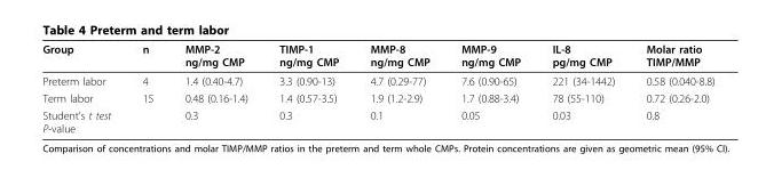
<table><thead><tr><td>Group</td><td>n</td><td>MMP-2 ng/mg CMP</td><td>TIMP-1 ng/mg CMP</td><td>MMP-8 ng/mg CMP</td><td>MMP-9 ng/mg CMP</td><td>IL-8 pg/mg CMP</td><td>Molar ratio TIMP/MMP</td></tr></thead><tbody><tr><td>Preterm labor</td><td>4</td><td>1.4 (0.40-4.7)</td><td>3.3 (0.90-13)</td><td>4.7 (0.29-77)</td><td>7.6 (0.90-65)</td><td>221 (34-1442)</td><td>0.58 (0.040-8.8)</td></tr><tr><td>Term labor</td><td>15</td><td>0.48 (0.16-1.4)</td><td>1.4 (0.57-3.5)</td><td>1.9 (1.2-2.9)</td><td>1.7 (0.88-3.4)</td><td>78 (55-110)</td><td>0.72 (0.26-2.0)</td></tr><tr><td>Student’s t test P-value</td><td></td><td>0.3</td><td>0.3</td><td>0.1</td><td>0.05</td><td>0.03</td><td>0.8</td></tr></tbody></table>